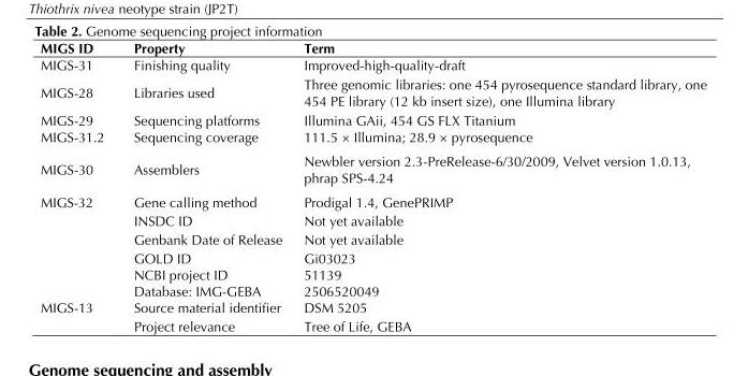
<table><thead><tr><td>MIGS ID</td><td>Property</td><td>Term</td></tr></thead><tbody><tr><td>MIGS-31</td><td>Finishing quality</td><td>Improved-high-quality-draft</td></tr><tr><td>MIGS-28</td><td>Libraries used</td><td>Three genomic libraries: one 454 pyrosequence standard library, one 454 PE library (12 kb insert size), one Illumina library</td></tr><tr><td>MIGS-29</td><td>Sequencing platforms</td><td>Illumina GAii, 454 GS FLX Titanium</td></tr><tr><td>MIGS-31.2</td><td>Sequencing coverage</td><td>111.5 × Illumina; 28.9 × pyrosequence</td></tr><tr><td>MIGS-30</td><td>Assemblers</td><td>Newbler version 2.3-PreRelease-6/30/2009, Velvet version 1.0.13, phrap SPS-4.24</td></tr><tr><td rowspan="6">MIGS-32</td><td>Gene calling method</td><td>Prodigal 1.4, GenePRIMP</td></tr><tr><td>INSDC ID</td><td>Not yet available</td></tr><tr><td>Genbank Date of Release</td><td>Not yet available</td></tr><tr><td>GOLD ID</td><td>Gi03023</td></tr><tr><td>NCBI project ID</td><td>51139</td></tr><tr><td>Database: IMG-GEBA</td><td>2506520049</td></tr><tr><td rowspan="2">MIGS-13</td><td>Source material identifier</td><td>DSM 5205</td></tr><tr><td>Project relevance</td><td>Tree of Life, GEBA</td></tr></tbody></table>